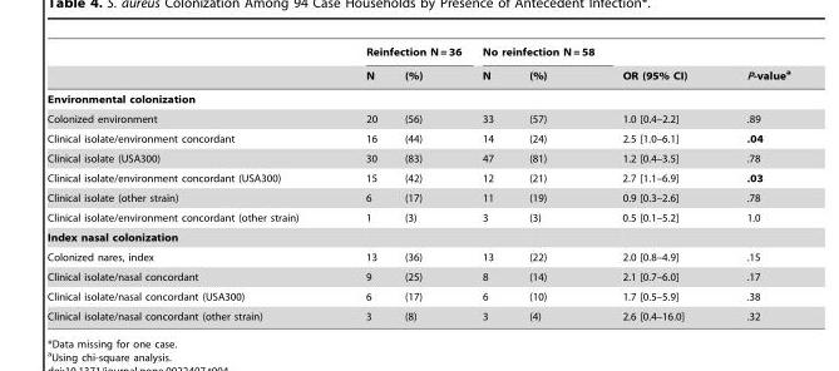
<table><thead><tr><td rowspan="2"></td><td colspan="2">Reinfection N = 36</td><td colspan="2">No reinfection N = 58</td><td rowspan="2">OR (95% CI)</td><td rowspan="2">P-value<sup>a</sup></td></tr><tr><td>N</td><td>(%)</td><td>N</td><td>(%)</td></tr></thead><tbody><tr><td colspan="7">Environmental colonization</td></tr><tr><td>Colonized environment</td><td>20</td><td>(56)</td><td>33</td><td>(57)</td><td>1.0 [0.4–2.2]</td><td>.89</td></tr><tr><td>Clinical isolate/environment concordant</td><td>16</td><td>(44)</td><td>14</td><td>(24)</td><td>2.5 [1.0–6.1]</td><td>.04</td></tr><tr><td>Clinical isolate (USA300)</td><td>30</td><td>(83)</td><td>47</td><td>(81)</td><td>1.2 [0.4–3.5]</td><td>.78</td></tr><tr><td>Clinical isolate/environment concordant (USA300)</td><td>15</td><td>(42)</td><td>12</td><td>(21)</td><td>2.7 [1.1–6.9]</td><td>.03</td></tr><tr><td>Clinical isolate (other strain)</td><td>6</td><td>(17)</td><td>11</td><td>(19)</td><td>0.9 [0.3–2.6]</td><td>.78</td></tr><tr><td>Clinical isolate/environment concordant (other strain)</td><td>1</td><td>(3)</td><td>3</td><td>(3)</td><td>0.5 [0.1–5.2]</td><td>1.0</td></tr><tr><td colspan="7">Index nasal colonization</td></tr><tr><td>Colonized nares, index</td><td>13</td><td>(36)</td><td>13</td><td>(22)</td><td>2.0 [0.8–4.9]</td><td>.15</td></tr><tr><td>Clinical isolate/nasal concordant</td><td>9</td><td>(25)</td><td>8</td><td>(14)</td><td>2.1 [0.7–6.0]</td><td>.17</td></tr><tr><td>Clinical isolate/nasal concordant (USA300)</td><td>6</td><td>(17)</td><td>6</td><td>(10)</td><td>1.7 [0.5–5.9]</td><td>.38</td></tr><tr><td>Clinical isolate/nasal concordant (other strain)</td><td>3</td><td>(8)</td><td>3</td><td>(4)</td><td>2.6 [0.4–16.0]</td><td>.32</td></tr></tbody></table>